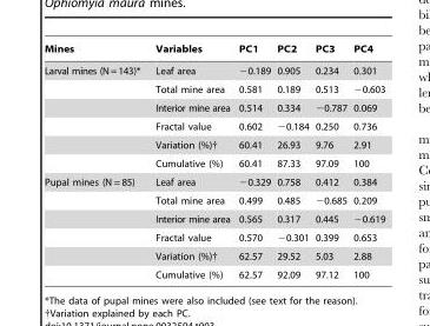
<table><thead><tr><td>Mines</td><td>Variables</td><td>PC1</td><td>PC2</td><td>PC3</td><td>PC4</td></tr></thead><tbody><tr><td rowspan="6">Larval mines (N=143)*</td><td>Leaf area</td><td>−0.189</td><td>0.905</td><td>0.234</td><td>0.301</td></tr><tr><td>Total mine area</td><td>0.581</td><td>0.189</td><td>0.513</td><td>−0.603</td></tr><tr><td>Interior mine area</td><td>0.514</td><td>0.334</td><td>−0.787</td><td>0.069</td></tr><tr><td>Fractal value</td><td>0.602</td><td>−0.184</td><td>0.250</td><td>0.736</td></tr><tr><td>Variation (%)†</td><td>60.41</td><td>26.93</td><td>9.76</td><td>2.91</td></tr><tr><td>Cumulative (%)</td><td>60.41</td><td>87.33</td><td>97.09</td><td>100</td></tr><tr><td rowspan="6">Pupal mines (N = 85)</td><td>Leaf area</td><td>−0.329</td><td>0.758</td><td>0.412</td><td>0.384</td></tr><tr><td>Total mine area</td><td>0.499</td><td>0.485</td><td>−0.685</td><td>0.209</td></tr><tr><td>Interior mine area</td><td>0.565</td><td>0.317</td><td>0.445</td><td>−0.619</td></tr><tr><td>Fractal value</td><td>0.570</td><td>−0.301</td><td>0.399</td><td>0.653</td></tr><tr><td>Variation (%)†</td><td>62.57</td><td>29.52</td><td>5.03</td><td>2.88</td></tr><tr><td>Cumulative (%)</td><td>62.57</td><td>92.09</td><td>97.12</td><td>100</td></tr></tbody></table>